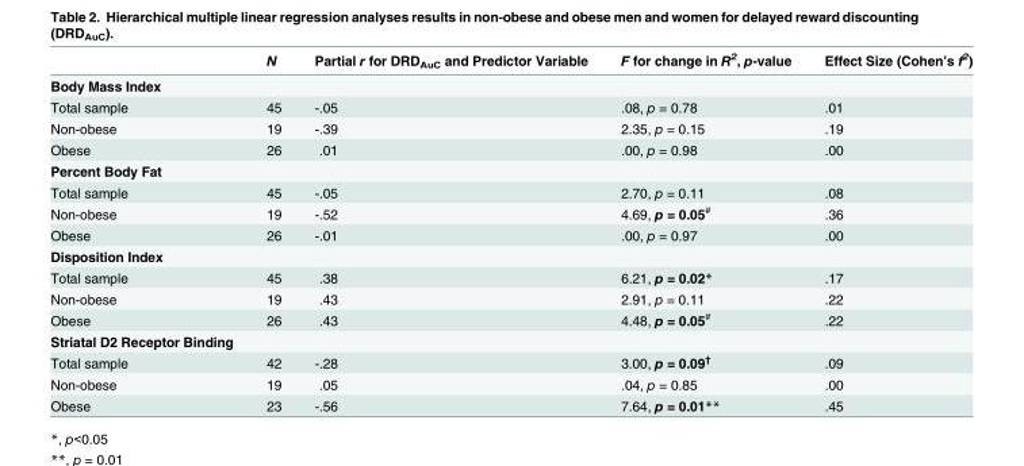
<table><thead><tr><td></td><td>N</td><td>Partial r for DRD<sub>AuC</sub> and Predictor Variable</td><td>F for change in R<sup>2</sup>, p-value</td><td>Effect Size (Cohen’s f<sup>2</sup>)</td></tr></thead><tbody><tr><td colspan="5">Body Mass Index</td></tr><tr><td>Total sample</td><td>45</td><td>-.05</td><td>.08, p = 0.78</td><td>.01</td></tr><tr><td>Non-obese</td><td>19</td><td>-.39</td><td>2.35, p = 0.15</td><td>.19</td></tr><tr><td>Obese</td><td>26</td><td>.01</td><td>.00, p = 0.98</td><td>.00</td></tr><tr><td colspan="5">Percent Body Fat</td></tr><tr><td>Total sample</td><td>45</td><td>-.05</td><td>2.70, p = 0.11</td><td>.08</td></tr><tr><td>Non-obese</td><td>19</td><td>-.52</td><td>4.69, p = 0.05<sup>#</sup></td><td>.36</td></tr><tr><td>Obese</td><td>26</td><td>-.01</td><td>.00, p = 0.97</td><td>.00</td></tr><tr><td colspan="5">Disposition Index</td></tr><tr><td>Total sample</td><td>45</td><td>.38</td><td>6.21, p = 0.02*</td><td>.17</td></tr><tr><td>Non-obese</td><td>19</td><td>.43</td><td>2.91, p = 0.11</td><td>.22</td></tr><tr><td>Obese</td><td>26</td><td>.43</td><td>4.48, p = 0.05<sup>#</sup></td><td>.22</td></tr><tr><td colspan="5">Striatal D2 Receptor Binding</td></tr><tr><td>Total sample</td><td>42</td><td>-.28</td><td>3.00, p = 0.09<sup>†</sup></td><td>.09</td></tr><tr><td>Non-obese</td><td>19</td><td>.05</td><td>.04, p = 0.85</td><td>.00</td></tr><tr><td>Obese</td><td>23</td><td>-.56</td><td>7.64, p = 0.01**</td><td>.45</td></tr></tbody></table>